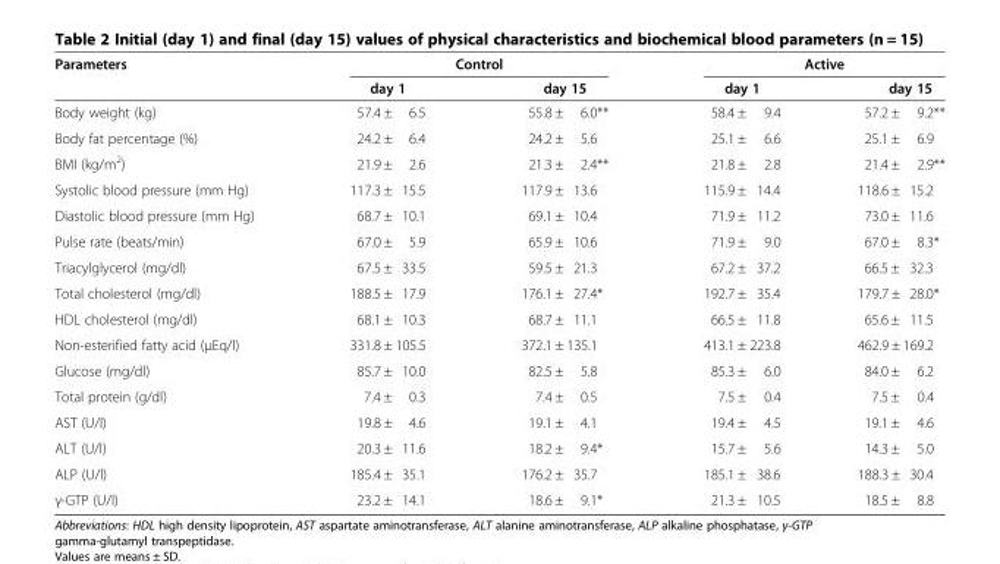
<table><thead><tr><td rowspan="2">Parameters</td><td colspan="2">Control</td><td colspan="2">Active</td></tr><tr><td>day 1</td><td>day 15</td><td>day 1</td><td>day 15</td></tr></thead><tbody><tr><td>Body weight (kg)</td><td>57.4 ± 6.5</td><td>55.8 ± 6.0**</td><td>58.4 ± 9.4</td><td>57.2 ± 9.2**</td></tr><tr><td>Body fat percentage (%)</td><td>24.2 ± 6.4</td><td>24.2 ± 5.6</td><td>25.1 ± 6.6</td><td>25.1 ± 6.9</td></tr><tr><td>BMI (kg/m<sup>2</sup>)</td><td>21.9 ± 2.6</td><td>21.3 ± 2.4**</td><td>21.8 ± 2.8</td><td>21.4 ± 2.9**</td></tr><tr><td>Systolic blood pressure (mm Hg)</td><td>117.3 ± 15.5</td><td>117.9 ± 13.6</td><td>115.9 ± 14.4</td><td>118.6 ± 15.2</td></tr><tr><td>Diastolic blood pressure (mm Hg)</td><td>68.7 ± 10.1</td><td>69.1 ± 10.4</td><td>71.9 ± 11.2</td><td>73.0 ± 11.6</td></tr><tr><td>Pulse rate (beats/min)</td><td>67.0 ± 5.9</td><td>65.9 ± 10.6</td><td>71.9 ± 9.0</td><td>67.0 ± 8.3*</td></tr><tr><td>Triacylglycerol (mg/dl)</td><td>67.5 ± 33.5</td><td>59.5 ± 21.3</td><td>67.2 ± 37.2</td><td>66.5 ± 32.3</td></tr><tr><td>Total cholesterol (mg/dl)</td><td>188.5 ± 17.9</td><td>176.1 ± 27.4*</td><td>192.7 ± 35.4</td><td>179.7 ± 28.0*</td></tr><tr><td>HDL cholesterol (mg/dl)</td><td>68.1 ± 10.3</td><td>68.7 ± 11.1</td><td>66.5 ± 11.8</td><td>65.6 ± 11.5</td></tr><tr><td>Non-esterified fatty acid (μEq/l)</td><td>331.8 ± 105.5</td><td>372.1 ± 135.1</td><td>413.1 ± 223.8</td><td>462.9 ± 169.2</td></tr><tr><td>Glucose (mg/dl)</td><td>85.7 ± 10.0</td><td>82.5 ± 5.8</td><td>85.3 ± 6.0</td><td>84.0 ± 6.2</td></tr><tr><td>Total protein (g/dl)</td><td>7.4 ± 0.3</td><td>7.4 ± 0.5</td><td>7.5 ± 0.4</td><td>7.5 ± 0.4</td></tr><tr><td>AST (U/l)</td><td>19.8 ± 4.6</td><td>19.1 ± 4.1</td><td>19.4 ± 4.5</td><td>19.1 ± 4.6</td></tr><tr><td>ALT (U/l)</td><td>20.3 ± 11.6</td><td>18.2 ± 9.4*</td><td>15.7 ± 5.6</td><td>14.3 ± 5.0</td></tr><tr><td>ALP (U/l)</td><td>185.4 ± 35.1</td><td>176.2 ± 35.7</td><td>185.1 ± 38.6</td><td>188.3 ± 30.4</td></tr><tr><td>γ-GTP (U/l)</td><td>23.2 ± 14.1</td><td>18.6 ± 9.1*</td><td>21.3 ± 10.5</td><td>18.5 ± 8.8</td></tr></tbody></table>